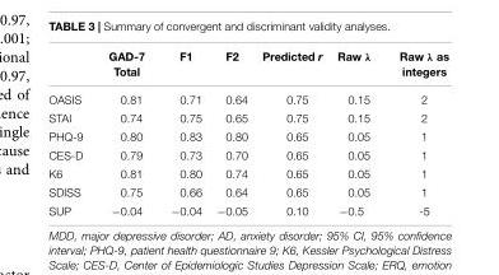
<table><thead><tr><td></td><td>GAD-7 Total</td><td>F1</td><td>F2</td><td>Predicted r</td><td>Raw λ</td><td>Raw λ as integers</td></tr></thead><tbody><tr><td>OASIS</td><td>0.81</td><td>0.71</td><td>0.64</td><td>0.75</td><td>0.15</td><td>2</td></tr><tr><td>STAI</td><td>0.74</td><td>0.75</td><td>0.65</td><td>0.75</td><td>0.15</td><td>2</td></tr><tr><td>PHQ-9</td><td>0.80</td><td>0.83</td><td>0.80</td><td>0.65</td><td>0.05</td><td>1</td></tr><tr><td>CES-D</td><td>0.79</td><td>0.73</td><td>0.70</td><td>0.65</td><td>0.05</td><td>1</td></tr><tr><td>K6</td><td>0.81</td><td>0.80</td><td>0.74</td><td>0.65</td><td>0.05</td><td>1</td></tr><tr><td>SDISS</td><td>0.75</td><td>0.66</td><td>0.64</td><td>0.65</td><td>0.05</td><td>1</td></tr><tr><td>SUP</td><td>−0.04</td><td>−0.04</td><td>−0.05</td><td>0.10</td><td>−0.5</td><td>-5</td></tr></tbody></table>